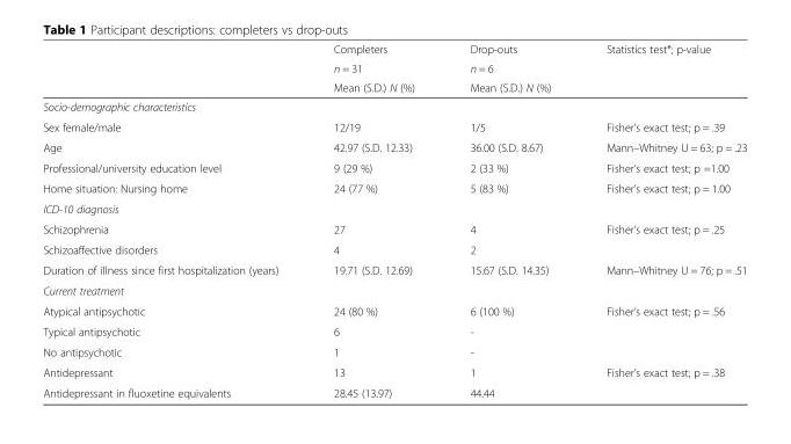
<table><thead><tr><td rowspan="3"></td><td rowspan="3">Completers n = 31 Mean (S.D.) N (%)</td><td rowspan="3">Drop-outs n = 6 Mean (S.D.) N (%)</td><td rowspan="3">Statistics test*; p-value</td></tr><tr></tr><tr></tr></thead><tbody><tr><td colspan="4">Socio-demographic characteristics</td></tr><tr><td>Sex female/male</td><td>12/19</td><td>1/5</td><td>Fisher’s exact test; p = .39</td></tr><tr><td>Age</td><td>42.97 (S.D. 12.33)</td><td>36.00 (S.D. 8.67)</td><td>Mann–Whitney U = 63; p = .23</td></tr><tr><td>Professional/university education level</td><td>9 (29 %)</td><td>2 (33 %)</td><td>Fisher’s exact test; p =1.00</td></tr><tr><td>Home situation: Nursing home</td><td>24 (77 %)</td><td>5 (83 %)</td><td>Fisher’s exact test; p = 1.00</td></tr><tr><td colspan="4">ICD-10 diagnosis</td></tr><tr><td>Schizophrenia</td><td>27</td><td>4</td><td>Fisher’s exact test; p = .25</td></tr><tr><td>Schizoaffective disorders</td><td>4</td><td>2</td><td></td></tr><tr><td>Duration of illness since first hospitalization (years)</td><td>19.71 (S.D. 12.69)</td><td>15.67 (S.D. 14.35)</td><td>Mann–Whitney U = 76; p = .51</td></tr><tr><td colspan="4">Current treatment</td></tr><tr><td>Atypical antipsychotic</td><td>24 (80 %)</td><td>6 (100 %)</td><td>Fisher’s exact test; p = .56</td></tr><tr><td>Typical antipsychotic</td><td>6</td><td>-</td><td></td></tr><tr><td>No antipsychotic</td><td>1</td><td>-</td><td></td></tr><tr><td>Antidepressant</td><td>13</td><td>1</td><td>Fisher’s exact test; p = .38</td></tr><tr><td>Antidepressant in fluoxetine equivalents</td><td>28.45 (13.97)</td><td>44.44</td><td></td></tr></tbody></table>